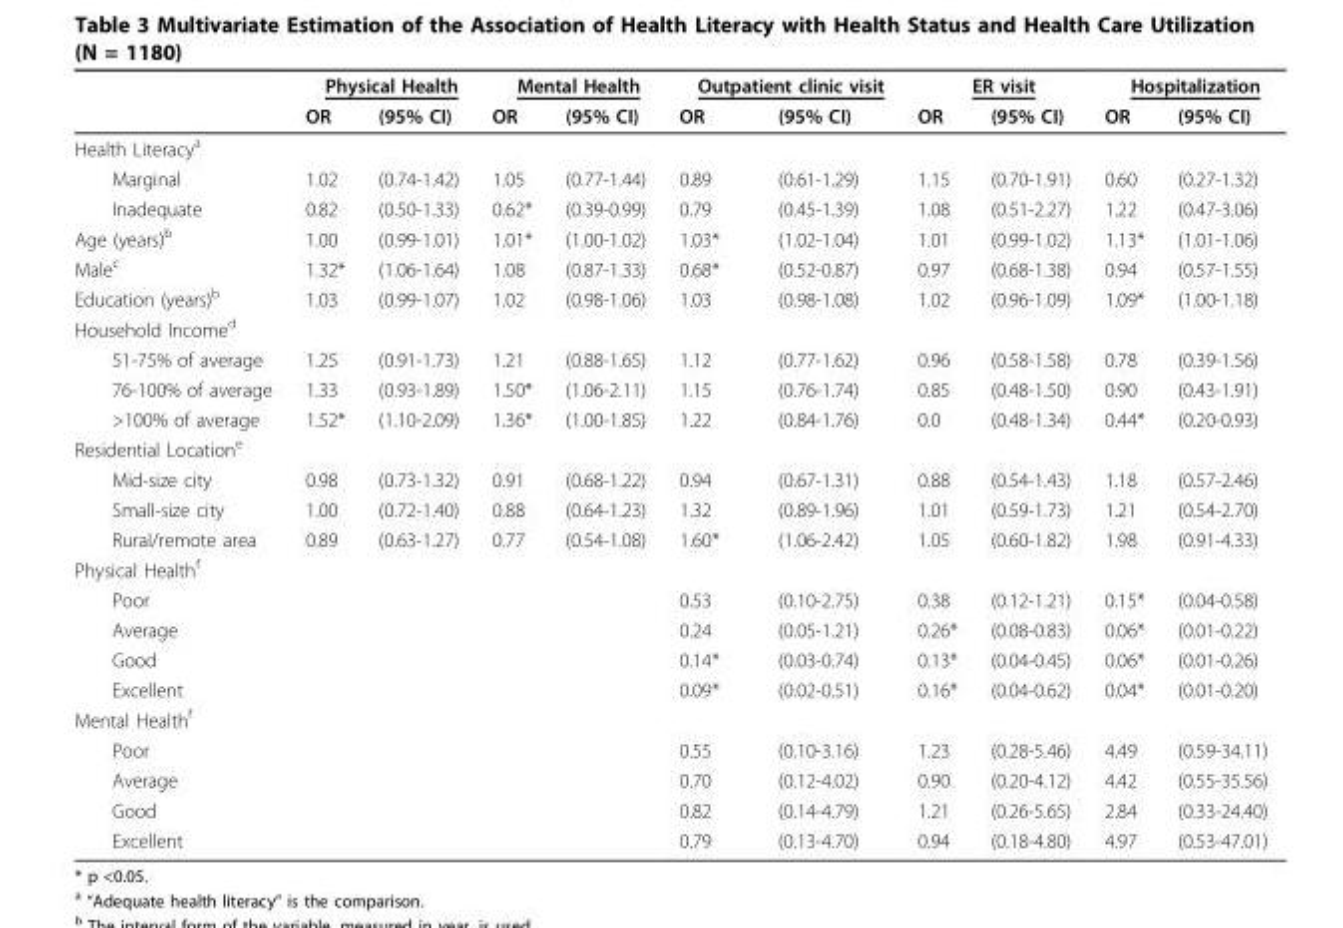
<table><thead><tr><td rowspan="2"></td><td colspan="2">Physical Health</td><td colspan="2">Mental Health</td><td colspan="2">Outpatient clinic visit</td><td colspan="2">ER visit</td><td colspan="2">Hospitalization</td></tr><tr><td>OR</td><td>(95% CI)</td><td>OR</td><td>(95% CI)</td><td>OR</td><td>(95% CI)</td><td>OR</td><td>(95% CI)</td><td>OR</td><td>(95% CI)</td></tr></thead><tbody><tr><td colspan="11">Health Literacy<sup>a</sup></td></tr><tr><td>Marginal</td><td>1.02</td><td>(0.74-1.42)</td><td>1.05</td><td>(0.77-1.44)</td><td>0.89</td><td>(0.61-1.29)</td><td>1.15</td><td>(0.70-1.91)</td><td>0.60</td><td>(0.27-1.32)</td></tr><tr><td>Inadequate</td><td>0.82</td><td>(0.50-1.33)</td><td>0.62*</td><td>(0.39-0.99)</td><td>0.79</td><td>(0.45-1.39)</td><td>1.08</td><td>(0.51-2.27)</td><td>1.22</td><td>(0.47-3.06)</td></tr><tr><td>Age (years)<sup>b</sup></td><td>1.00</td><td>(0.99-1.01)</td><td>1.01*</td><td>(1.00-1.02)</td><td>1.03*</td><td>(1.02-1.04)</td><td>1.01</td><td>(0.99-1.02)</td><td>1.13*</td><td>(1.01-1.06)</td></tr><tr><td>Male<sup>c</sup></td><td>1.32*</td><td>(1.06-1.64)</td><td>1.08</td><td>(0.87-1.33)</td><td>0.68*</td><td>(0.52-0.87)</td><td>0.97</td><td>(0.68-1.38)</td><td>0.94</td><td>(0.57-1.55)</td></tr><tr><td>Education (years)<sup>b</sup></td><td>1.03</td><td>(0.99-1.07)</td><td>1.02</td><td>(0.98-1.06)</td><td>1.03</td><td>(0.98-1.08)</td><td>1.02</td><td>(0.96-1.09)</td><td>1.09*</td><td>(1.00-1.18)</td></tr><tr><td colspan="11">Household Income<sup>d</sup></td></tr><tr><td>51-75% of average</td><td>1.25</td><td>(0.91-1.73)</td><td>1.21</td><td>(0.88-1.65)</td><td>1.12</td><td>(0.77-1.62)</td><td>0.96</td><td>(0.58-1.58)</td><td>0.78</td><td>(0.39-1.56)</td></tr><tr><td>76-100% of average</td><td>1.33</td><td>(0.93-1.89)</td><td>1.50*</td><td>(1.06-2.11)</td><td>1.15</td><td>(0.76-1.74)</td><td>0.85</td><td>(0.48-1.50)</td><td>0.90</td><td>(0.43-1.91)</td></tr><tr><td>&gt;100% of average</td><td>1.52*</td><td>(1.10-2.09)</td><td>1.36*</td><td>(1.00-1.85)</td><td>1.22</td><td>(0.84-1.76)</td><td>0.0</td><td>(0.48-1.34)</td><td>0.44*</td><td>(0.20-0.93)</td></tr><tr><td colspan="11">Residential Location<sup>e</sup></td></tr><tr><td>Mid-size city</td><td>0.98</td><td>(0.73-1.32)</td><td>0.91</td><td>(0.68-1.22)</td><td>0.94</td><td>(0.67-1.31)</td><td>0.88</td><td>(0.54-1.43)</td><td>1.18</td><td>(0.57-2.46)</td></tr><tr><td>Small-size city</td><td>1.00</td><td>(0.72-1.40)</td><td>0.88</td><td>(0.64-1.23)</td><td>1.32</td><td>(0.89-1.96)</td><td>1.01</td><td>(0.59-1.73)</td><td>1.21</td><td>(0.54-2.70)</td></tr><tr><td>Rural/remote area</td><td>0.89</td><td>(0.63-1.27)</td><td>0.77</td><td>(0.54-1.08)</td><td>1.60*</td><td>(1.06-2.42)</td><td>1.05</td><td>(0.60-1.82)</td><td>1.98</td><td>(0.91-4.33)</td></tr><tr><td colspan="11">Physical Health<sup>f</sup></td></tr><tr><td>Poor</td><td></td><td></td><td></td><td></td><td>0.53</td><td>(0.10-2.75)</td><td>0.38</td><td>(0.12-1.21)</td><td>0.15*</td><td>(0.04-0.58)</td></tr><tr><td>Average</td><td></td><td></td><td></td><td></td><td>0.24</td><td>(0.05-1.21)</td><td>0.26*</td><td>(0.08-0.83)</td><td>0.06*</td><td>(0.01-0.22)</td></tr><tr><td>Good</td><td></td><td></td><td></td><td></td><td>0.14*</td><td>(0.03-0.74)</td><td>0.13*</td><td>(0.04-0.45)</td><td>0.06*</td><td>(0.01-0.26)</td></tr><tr><td>Excellent</td><td></td><td></td><td></td><td></td><td>0.09*</td><td>(0.02-0.51)</td><td>0.16*</td><td>(0.04-0.62)</td><td>0.04*</td><td>(0.01-0.20)</td></tr><tr><td colspan="11">Mental Health<sup>f</sup></td></tr><tr><td>Poor</td><td></td><td></td><td></td><td></td><td>0.55</td><td>(0.10-3.16)</td><td>1.23</td><td>(0.28-5.46)</td><td>4.49</td><td>(0.59-34.11)</td></tr><tr><td>Average</td><td></td><td></td><td></td><td></td><td>0.70</td><td>(0.12-4.02)</td><td>0.90</td><td>(0.20-4.12)</td><td>4.42</td><td>(0.55-35.56)</td></tr><tr><td>Good</td><td></td><td></td><td></td><td></td><td>0.82</td><td>(0.14-4.79)</td><td>1.21</td><td>(0.26-5.65)</td><td>2.84</td><td>(0.33-24.40)</td></tr><tr><td>Excellent</td><td></td><td></td><td></td><td></td><td>0.79</td><td>(0.13-4.70)</td><td>0.94</td><td>(0.18-4.80)</td><td>4.97</td><td>(0.53-47.01)</td></tr></tbody></table>